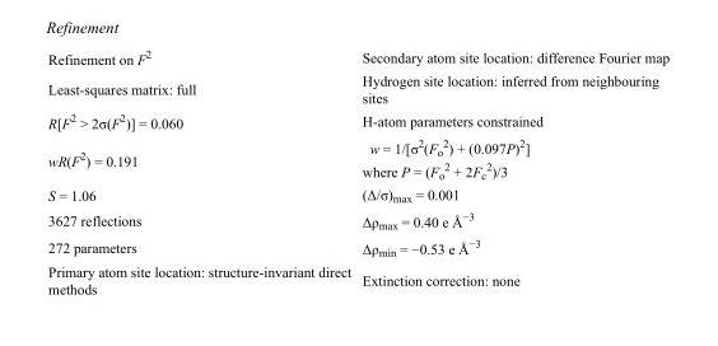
<table><tbody><tr><td>Refinement on F<sup>2</sup></td><td>Secondary atom site location: difference Fourier map</td></tr><tr><td>Least-squares matrix: full</td><td>Hydrogen site location: inferred from neighbouring sites</td></tr><tr><td>R[F<sup>2</sup> &gt; 2σ(F<sup>2</sup>)] = 0.060</td><td>H-atom parameters constrained</td></tr><tr><td>wR(F<sup>2</sup>) = 0.191</td><td>w = 1/[σ<sup>2</sup>(F<sub>o</sub> <sup>2</sup>) + (0.097P)<sup>2</sup>] where P = (F<sub>o</sub> <sup>2</sup> + 2F<sub>c</sub> <sup>2</sup>)/3</td></tr><tr><td>S = 1.06</td><td>(Δ/σ)<sub>max</sub> = 0.001</td></tr><tr><td>3627 reflections</td><td>Δρ<sub>max</sub> = 0.40 e Å<sup>−3</sup></td></tr><tr><td>272 parameters</td><td>Δρ<sub>min</sub> = −0.53 e Å<sup>−3</sup></td></tr><tr><td>Primary atom site location: structure-invariant direct methods</td><td>Extinction correction: none</td></tr></tbody></table>